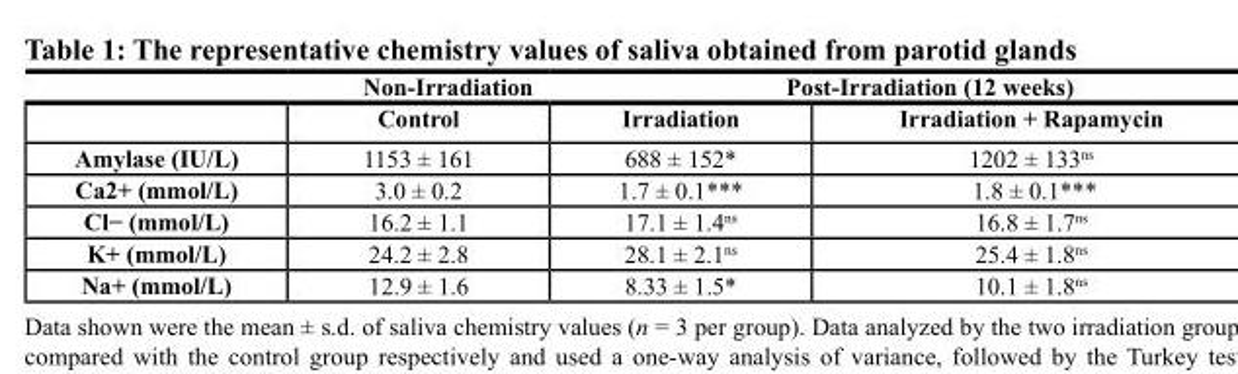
<table><thead><tr><td rowspan="2"></td><td rowspan="2">Non-Irradiation Control</td><td colspan="2">Post-Irradiation (12 weeks)</td></tr><tr><td>Irradiation</td><td>Irradiation + Rapamycin</td></tr></thead><tbody><tr><td>Amylase (IU/L)</td><td>1153 ± 161</td><td>688 ± 152*</td><td>1202 ± 133<sup>ns</sup></td></tr><tr><td>Ca2+ (mmol/L)</td><td>3.0 ± 0.2</td><td>1.7 ± 0.1***</td><td>1.8 ± 0.1***</td></tr><tr><td>Cl− (mmol/L)</td><td>16.2 ± 1.1</td><td>17.1 ± 1.4<sup>ns</sup></td><td>16.8 ± 1.7<sup>ns</sup></td></tr><tr><td>K+ (mmol/L)</td><td>24.2 ± 2.8</td><td>28.1 ± 2.1<sup>ns</sup></td><td>25.4 ± 1.8<sup>ns</sup></td></tr><tr><td>Na+ (mmol/L)</td><td>12.9 ± 1.6</td><td>8.33 ± 1.5*</td><td>10.1 ± 1.8<sup>ns</sup></td></tr></tbody></table>